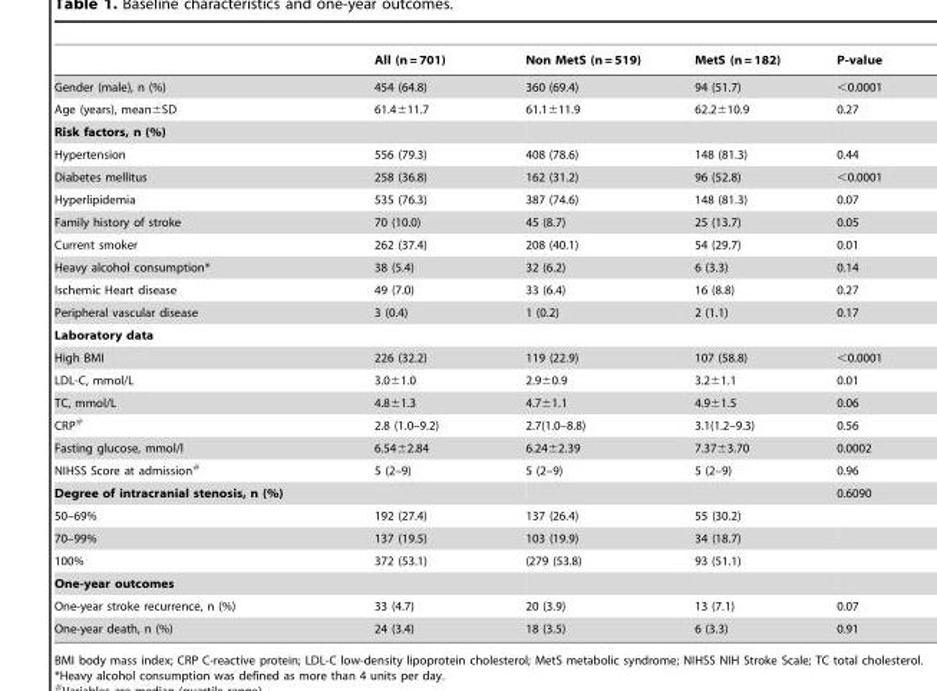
<table><thead><tr><td></td><td>All (n = 701)</td><td>Non MetS (n = 519)</td><td>MetS (n = 182)</td><td>P-value</td></tr></thead><tbody><tr><td>Gender (male), n (%)</td><td>454 (64.8)</td><td>360 (69.4)</td><td>94 (51.7)</td><td>&lt;0.0001</td></tr><tr><td>Age (years), mean±SD</td><td>61.4±11.7</td><td>61.1±11.9</td><td>62.2±10.9</td><td>0.27</td></tr><tr><td colspan="5">Risk factors, n (%)</td></tr><tr><td>Hypertension</td><td>556 (79.3)</td><td>408 (78.6)</td><td>148 (81.3)</td><td>0.44</td></tr><tr><td>Diabetes mellitus</td><td>258 (36.8)</td><td>162 (31.2)</td><td>96 (52.8)</td><td>&lt;0.0001</td></tr><tr><td>Hyperlipidemia</td><td>535 (76.3)</td><td>387 (74.6)</td><td>148 (81.3)</td><td>0.07</td></tr><tr><td>Family history of stroke</td><td>70 (10.0)</td><td>45 (8.7)</td><td>25 (13.7)</td><td>0.05</td></tr><tr><td>Current smoker</td><td>262 (37.4)</td><td>208 (40.1)</td><td>54 (29.7)</td><td>0.01</td></tr><tr><td>Heavy alcohol consumption*</td><td>38 (5.4)</td><td>32 (6.2)</td><td>6 (3.3)</td><td>0.14</td></tr><tr><td>Ischemic Heart disease</td><td>49 (7.0)</td><td>33 (6.4)</td><td>16 (8.8)</td><td>0.27</td></tr><tr><td>Peripheral vascular disease</td><td>3 (0.4)</td><td>1 (0.2)</td><td>2 (1.1)</td><td>0.17</td></tr><tr><td colspan="5">Laboratory data</td></tr><tr><td>High BMI</td><td>226 (32.2)</td><td>119 (22.9)</td><td>107 (58.8)</td><td>&lt;0.0001</td></tr><tr><td>LDL-C, mmol/L</td><td>3.0±1.0</td><td>2.9±0.9</td><td>3.2±1.1</td><td>0.01</td></tr><tr><td>TC, mmol/L</td><td>4.8±1.3</td><td>4.7±1.1</td><td>4.9±1.5</td><td>0.06</td></tr><tr><td>CRP#</td><td>2.8 (1.0–9.2)</td><td>2.7(1.0–8.8)</td><td>3.1(1.2–9.3)</td><td>0.56</td></tr><tr><td>Fasting glucose, mmol/l</td><td>6.54±2.84</td><td>6.24±2.39</td><td>7.37±3.70</td><td>0.0002</td></tr><tr><td>NIHSS Score at admission#</td><td>5 (2–9)</td><td>5 (2–9)</td><td>5 (2–9)</td><td>0.96</td></tr><tr><td>Degree of intracranial stenosis, n (%)</td><td></td><td></td><td></td><td>0.6090</td></tr><tr><td>50–69%</td><td>192 (27.4)</td><td>137 (26.4)</td><td>55 (30.2)</td><td></td></tr><tr><td>70–99%</td><td>137 (19.5)</td><td>103 (19.9)</td><td>34 (18.7)</td><td></td></tr><tr><td>100%</td><td>372 (53.1)</td><td>(279 (53.8)</td><td>93 (51.1)</td><td></td></tr><tr><td colspan="5">One-year outcomes</td></tr><tr><td>One-year stroke recurrence, n (%)</td><td>33 (4.7)</td><td>20 (3.9)</td><td>13 (7.1)</td><td>0.07</td></tr><tr><td>One-year death, n (%)</td><td>24 (3.4)</td><td>18 (3.5)</td><td>6 (3.3)</td><td>0.91</td></tr></tbody></table>